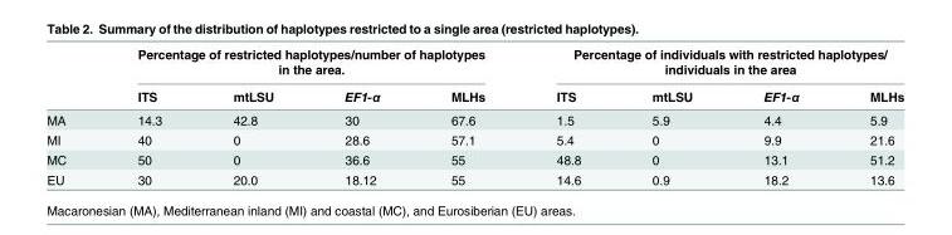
<table><thead><tr><td rowspan="2"></td><td colspan="4">Percentage of restricted haplotypes/number of haplotypes in the area.</td><td colspan="4">Percentage of individuals with restricted haplotypes/ individuals in the area</td></tr><tr><td>ITS</td><td>mtLSU</td><td>EF1-α</td><td>MLHs</td><td>ITS</td><td>mtLSU</td><td>EF1-α</td><td>MLHs</td></tr></thead><tbody><tr><td>MA</td><td>14.3</td><td>42.8</td><td>30</td><td>67.6</td><td>1.5</td><td>5.9</td><td>4.4</td><td>5.9</td></tr><tr><td>MI</td><td>40</td><td>0</td><td>28.6</td><td>57.1</td><td>5.4</td><td>0</td><td>9.9</td><td>21.6</td></tr><tr><td>MC</td><td>50</td><td>0</td><td>36.6</td><td>55</td><td>48.8</td><td>0</td><td>13.1</td><td>51.2</td></tr><tr><td>EU</td><td>30</td><td>20.0</td><td>18.12</td><td>55</td><td>14.6</td><td>0.9</td><td>18.2</td><td>13.6</td></tr></tbody></table>